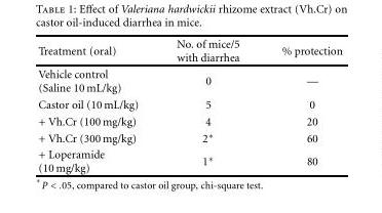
<table><thead><tr><td>Treatment (oral)</td><td>No. of mice/5 with diarrhea</td><td>% protection</td></tr></thead><tbody><tr><td>Vehicle control (Saline 10 mL/kg)</td><td>0</td><td>—</td></tr><tr><td>Castor oil (10 mL/kg)</td><td>5</td><td>0</td></tr><tr><td>+ Vh.Cr (100 mg/kg)</td><td>4</td><td>20</td></tr><tr><td>+ Vh.Cr (300 mg/kg)</td><td>2∗</td><td>60</td></tr><tr><td>+ Loperamide (10 mg/kg)</td><td>1∗</td><td>80</td></tr></tbody></table>